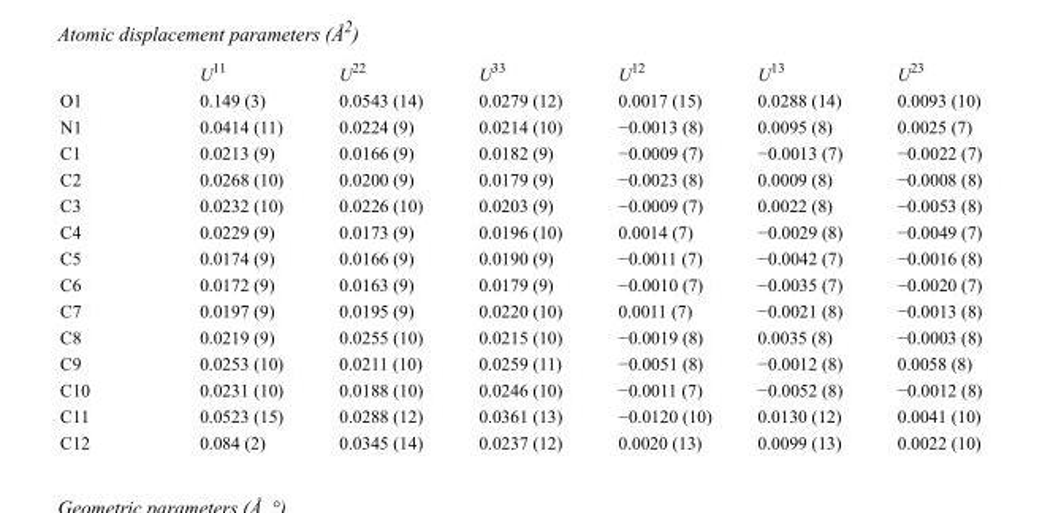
<table><thead><tr><td></td><td>U<sup>11</sup></td><td>U<sup>22</sup></td><td>U<sup>33</sup></td><td>U<sup>12</sup></td><td>U<sup>13</sup></td><td>U<sup>23</sup></td></tr></thead><tbody><tr><td>O1</td><td>0.149 (3)</td><td>0.0543 (14)</td><td>0.0279 (12)</td><td>0.0017 (15)</td><td>0.0288 (14)</td><td>0.0093 (10)</td></tr><tr><td>N1</td><td>0.0414 (11)</td><td>0.0224 (9)</td><td>0.0214 (10)</td><td>−0.0013 (8)</td><td>0.0095 (8)</td><td>0.0025 (7)</td></tr><tr><td>C1</td><td>0.0213 (9)</td><td>0.0166 (9)</td><td>0.0182 (9)</td><td>−0.0009 (7)</td><td>−0.0013 (7)</td><td>−0.0022 (7)</td></tr><tr><td>C2</td><td>0.0268 (10)</td><td>0.0200 (9)</td><td>0.0179 (9)</td><td>−0.0023 (8)</td><td>0.0009 (8)</td><td>−0.0008 (8)</td></tr><tr><td>C3</td><td>0.0232 (10)</td><td>0.0226 (10)</td><td>0.0203 (9)</td><td>−0.0009 (7)</td><td>0.0022 (8)</td><td>−0.0053 (8)</td></tr><tr><td>C4</td><td>0.0229 (9)</td><td>0.0173 (9)</td><td>0.0196 (10)</td><td>0.0014 (7)</td><td>−0.0029 (8)</td><td>−0.0049 (7)</td></tr><tr><td>C5</td><td>0.0174 (9)</td><td>0.0166 (9)</td><td>0.0190 (9)</td><td>−0.0011 (7)</td><td>−0.0042 (7)</td><td>−0.0016 (8)</td></tr><tr><td>C6</td><td>0.0172 (9)</td><td>0.0163 (9)</td><td>0.0179 (9)</td><td>−0.0010 (7)</td><td>−0.0035 (7)</td><td>−0.0020 (7)</td></tr><tr><td>C7</td><td>0.0197 (9)</td><td>0.0195 (9)</td><td>0.0220 (10)</td><td>0.0011 (7)</td><td>−0.0021 (8)</td><td>−0.0013 (8)</td></tr><tr><td>C8</td><td>0.0219 (9)</td><td>0.0255 (10)</td><td>0.0215 (10)</td><td>−0.0019 (8)</td><td>0.0035 (8)</td><td>−0.0003 (8)</td></tr><tr><td>C9</td><td>0.0253 (10)</td><td>0.0211 (10)</td><td>0.0259 (11)</td><td>−0.0051 (8)</td><td>−0.0012 (8)</td><td>0.0058 (8)</td></tr><tr><td>C10</td><td>0.0231 (10)</td><td>0.0188 (10)</td><td>0.0246 (10)</td><td>−0.0011 (7)</td><td>−0.0052 (8)</td><td>−0.0012 (8)</td></tr><tr><td>C11</td><td>0.0523 (15)</td><td>0.0288 (12)</td><td>0.0361 (13)</td><td>−0.0120 (10)</td><td>0.0130 (12)</td><td>0.0041 (10)</td></tr><tr><td>C12</td><td>0.084 (2)</td><td>0.0345 (14)</td><td>0.0237 (12)</td><td>0.0020 (13)</td><td>0.0099 (13)</td><td>0.0022 (10)</td></tr></tbody></table>